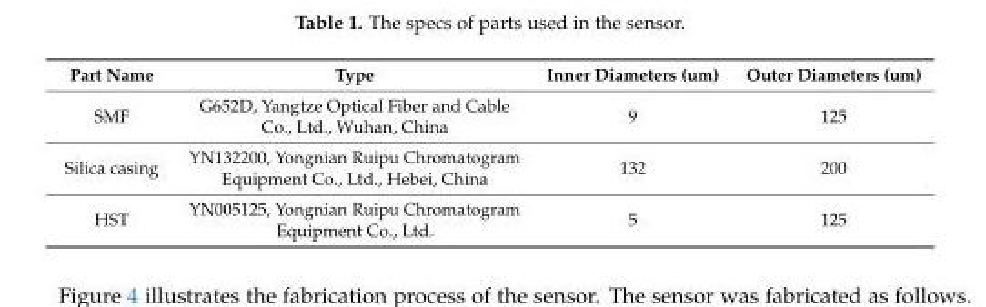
<table><thead><tr><td>Part Name</td><td>Type</td><td>Inner Diameters (um)</td><td>Outer Diameters (um)</td></tr></thead><tbody><tr><td>SMF</td><td>G652D, Yangtze Optical Fiber and Cable Co., Ltd., Wuhan, China</td><td>9</td><td>125</td></tr><tr><td>Silica casing</td><td>YN132200, Yongnian Ruipu Chromatogram Equipment Co., Ltd., Hebei, China</td><td>132</td><td>200</td></tr><tr><td>HST</td><td>YN005125, Yongnian Ruipu Chromatogram Equipment Co., Ltd.</td><td>5</td><td>125</td></tr></tbody></table>